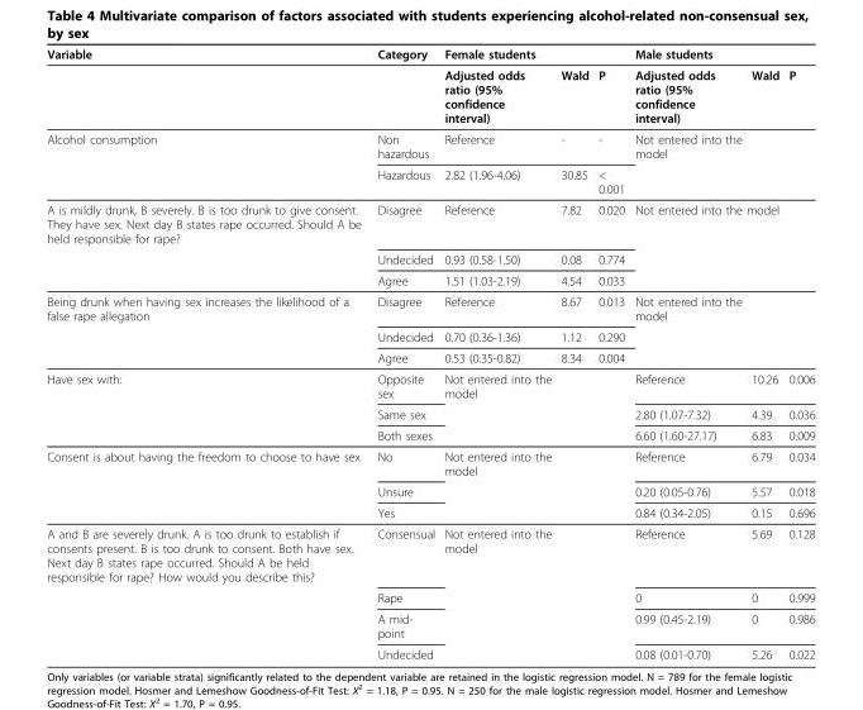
<table><thead><tr><td>Variable</td><td>Category</td><td>Female students</td><td></td><td></td><td>Male students</td><td></td><td></td></tr></thead><tbody><tr><td></td><td></td><td>Adjusted odds ratio (95% confidence interval)</td><td>Wald</td><td>P</td><td>Adjusted odds ratio (95% confidence interval)</td><td>Wald</td><td>P</td></tr><tr><td rowspan="2">Alcohol consumption</td><td>Non hazardous</td><td>Reference</td><td>-</td><td>-</td><td>Not entered into the model</td><td></td><td></td></tr><tr><td>Hazardous</td><td>2.82 (1.96-4.06)</td><td>30.85</td><td>&lt; 0.001</td><td></td><td></td><td></td></tr><tr><td rowspan="3">A is mildly drunk, B severely. B is too drunk to give consent. They have sex. Next day B states rape occurred. Should A be held responsible for rape?</td><td>Disagree</td><td>Reference</td><td>7.82</td><td>0.020</td><td colspan="3">Not entered into the model</td></tr><tr><td>Undecided</td><td>0.93 (0.58-1.50)</td><td>0.08</td><td>0.774</td><td></td><td></td><td></td></tr><tr><td>Agree</td><td>1.51 (1.03-2.19)</td><td>4.54</td><td>0.033</td><td></td><td></td><td></td></tr><tr><td rowspan="3">Being drunk when having sex increases the likelihood of a false rape allegation</td><td>Disagree</td><td>Reference</td><td>8.67</td><td>0.013</td><td>Not entered into the model</td><td></td><td></td></tr><tr><td>Undecided</td><td>0.70 (0.36-1.36)</td><td>1.12</td><td>0.290</td><td></td><td></td><td></td></tr><tr><td>Agree</td><td>0.53 (0.35-0.82)</td><td>8.34</td><td>0.004</td><td></td><td></td><td></td></tr><tr><td rowspan="3">Have sex with:</td><td>Opposite sex</td><td>Not entered into the model</td><td></td><td></td><td>Reference</td><td>10.26</td><td>0.006</td></tr><tr><td>Same sex</td><td></td><td></td><td></td><td>2.80 (1.07-7.32)</td><td>4.39</td><td>0.036</td></tr><tr><td>Both sexes</td><td></td><td></td><td></td><td>6.60 (1.60-27.17)</td><td>6.83</td><td>0.009</td></tr><tr><td rowspan="3">Consent is about having the freedom to choose to have sex</td><td>No</td><td>Not entered into the model</td><td></td><td></td><td>Reference</td><td>6.79</td><td>0.034</td></tr><tr><td>Unsure</td><td></td><td></td><td></td><td>0.20 (0.05-0.76)</td><td>5.57</td><td>0.018</td></tr><tr><td>Yes</td><td></td><td></td><td></td><td>0.84 (0.34-2.05)</td><td>0.15</td><td>0.696</td></tr><tr><td rowspan="4">A and B are severely drunk. A is too drunk to establish if consents present. B is too drunk to consent. Both have sex. Next day B states rape occurred. Should A be held responsible for rape? How would you describe this?</td><td>Consensual</td><td>Not entered into the model</td><td></td><td></td><td>Reference</td><td>5.69</td><td>0.128</td></tr><tr><td>Rape</td><td></td><td></td><td></td><td>0</td><td>0</td><td>0.999</td></tr><tr><td>A mid- point</td><td></td><td></td><td></td><td>0.99 (0.45-2.19)</td><td>0</td><td>0.986</td></tr><tr><td>Undecided</td><td></td><td></td><td></td><td>0.08 (0.01-0.70)</td><td>5.26</td><td>0.022</td></tr></tbody></table>